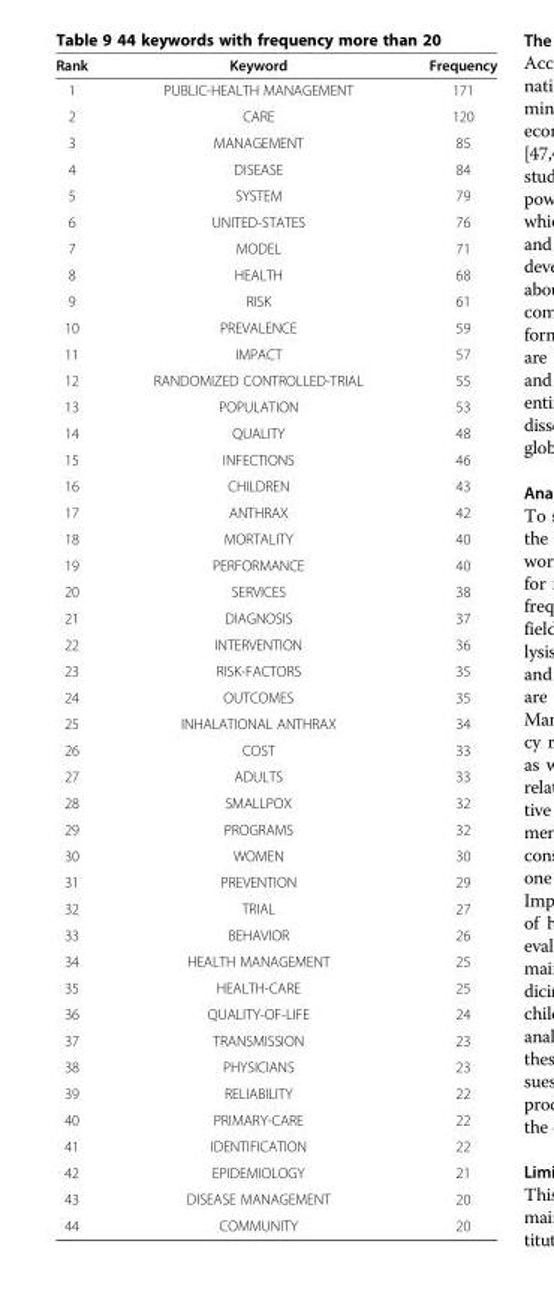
<table><thead><tr><td>Rank</td><td>Keyword</td><td>Frequency</td></tr></thead><tbody><tr><td>1</td><td>PUBLIC-HEALTH MANAGEMENT</td><td>171</td></tr><tr><td>2</td><td>CARE</td><td>120</td></tr><tr><td>3</td><td>MANAGEMENT</td><td>85</td></tr><tr><td>4</td><td>DISEASE</td><td>84</td></tr><tr><td>5</td><td>SYSTEM</td><td>79</td></tr><tr><td>6</td><td>UNITED-STATES</td><td>76</td></tr><tr><td>7</td><td>MODEL</td><td>71</td></tr><tr><td>8</td><td>HEALTH</td><td>68</td></tr><tr><td>9</td><td>RISK</td><td>61</td></tr><tr><td>10</td><td>PREVALENCE</td><td>59</td></tr><tr><td>11</td><td>IMPACT</td><td>57</td></tr><tr><td>12</td><td>RANDOMIZED CONTROLLED-TRIAL</td><td>55</td></tr><tr><td>13</td><td>POPULATION</td><td>53</td></tr><tr><td>14</td><td>QUALITY</td><td>48</td></tr><tr><td>15</td><td>INFECTIONS</td><td>46</td></tr><tr><td>16</td><td>CHILDREN</td><td>43</td></tr><tr><td>17</td><td>ANTHRAX</td><td>42</td></tr><tr><td>18</td><td>MORTALITY</td><td>40</td></tr><tr><td>19</td><td>PERFORMANCE</td><td>40</td></tr><tr><td>20</td><td>SERVICES</td><td>38</td></tr><tr><td>21</td><td>DIAGNOSIS</td><td>37</td></tr><tr><td>22</td><td>INTERVENTION</td><td>36</td></tr><tr><td>23</td><td>RISK-FACTORS</td><td>35</td></tr><tr><td>24</td><td>OUTCOMES</td><td>35</td></tr><tr><td>25</td><td>INHALATIONAL ANTHRAX</td><td>34</td></tr><tr><td>26</td><td>COST</td><td>33</td></tr><tr><td>27</td><td>ADULTS</td><td>33</td></tr><tr><td>28</td><td>SMALLPOX</td><td>32</td></tr><tr><td>29</td><td>PROGRAMS</td><td>32</td></tr><tr><td>30</td><td>WOMEN</td><td>30</td></tr><tr><td>31</td><td>PREVENTION</td><td>29</td></tr><tr><td>32</td><td>TRIAL</td><td>27</td></tr><tr><td>33</td><td>BEHAVIOR</td><td>26</td></tr><tr><td>34</td><td>HEALTH MANAGEMENT</td><td>25</td></tr><tr><td>35</td><td>HEALTH-CARE</td><td>25</td></tr><tr><td>36</td><td>QUALITY-OF-LIFE</td><td>24</td></tr><tr><td>37</td><td>TRANSMISSION</td><td>23</td></tr><tr><td>38</td><td>PHYSICIANS</td><td>23</td></tr><tr><td>39</td><td>RELIABILITY</td><td>22</td></tr><tr><td>40</td><td>PRIMARY-CARE</td><td>22</td></tr><tr><td>41</td><td>IDENTIFICATION</td><td>22</td></tr><tr><td>42</td><td>EPIDEMIOLOGY</td><td>21</td></tr><tr><td>43</td><td>DISEASE MANAGEMENT</td><td>20</td></tr><tr><td>44</td><td>COMMUNITY</td><td>20</td></tr></tbody></table>